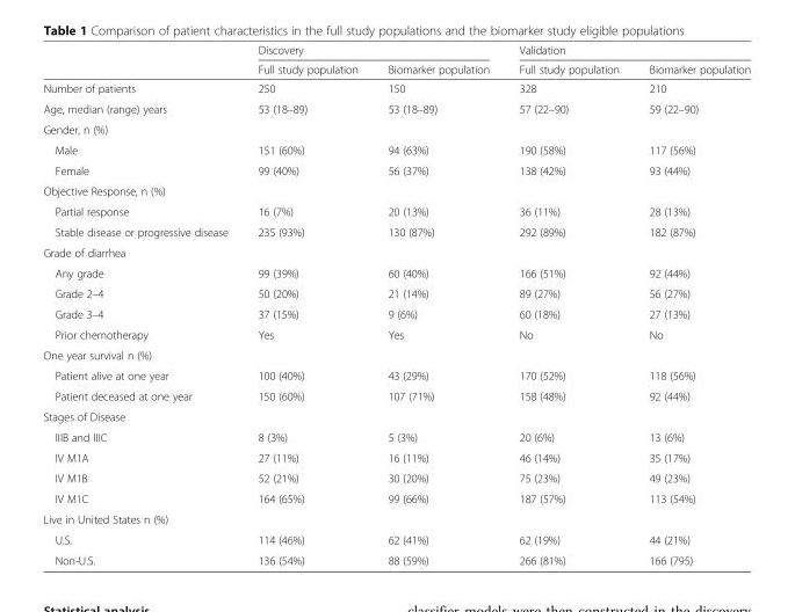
<table><thead><tr><td rowspan="2"></td><td colspan="2">Discovery</td><td colspan="2">Validation</td></tr><tr><td>Full study population</td><td>Biomarker population</td><td>Full study population</td><td>Biomarker population</td></tr></thead><tbody><tr><td>Number of patients</td><td>250</td><td>150</td><td>328</td><td>210</td></tr><tr><td>Age, median (range) years</td><td>53 (18–89)</td><td>53 (18–89)</td><td>57 (22–90)</td><td>59 (22–90)</td></tr><tr><td colspan="5">Gender, n (%)</td></tr><tr><td>Male</td><td>151 (60%)</td><td>94 (63%)</td><td>190 (58%)</td><td>117 (56%)</td></tr><tr><td>Female</td><td>99 (40%)</td><td>56 (37%)</td><td>138 (42%)</td><td>93 (44%)</td></tr><tr><td colspan="5">Objective Response, n (%)</td></tr><tr><td>Partial response</td><td>16 (7%)</td><td>20 (13%)</td><td>36 (11%)</td><td>28 (13%)</td></tr><tr><td>Stable disease or progressive disease</td><td>235 (93%)</td><td>130 (87%)</td><td>292 (89%)</td><td>182 (87%)</td></tr><tr><td colspan="5">Grade of diarrhea</td></tr><tr><td>Any grade</td><td>99 (39%)</td><td>60 (40%)</td><td>166 (51%)</td><td>92 (44%)</td></tr><tr><td>Grade 2–4</td><td>50 (20%)</td><td>21 (14%)</td><td>89 (27%)</td><td>56 (27%)</td></tr><tr><td>Grade 3–4</td><td>37 (15%)</td><td>9 (6%)</td><td>60 (18%)</td><td>27 (13%)</td></tr><tr><td>Prior chemotherapy</td><td>Yes</td><td>Yes</td><td>No</td><td>No</td></tr><tr><td colspan="5">One year survival n (%)</td></tr><tr><td>Patient alive at one year</td><td>100 (40%)</td><td>43 (29%)</td><td>170 (52%)</td><td>118 (56%)</td></tr><tr><td>Patient deceased at one year</td><td>150 (60%)</td><td>107 (71%)</td><td>158 (48%)</td><td>92 (44%)</td></tr><tr><td colspan="5">Stages of Disease</td></tr><tr><td>IIIB and IIIC</td><td>8 (3%)</td><td>5 (3%)</td><td>20 (6%)</td><td>13 (6%)</td></tr><tr><td>IV M1A</td><td>27 (11%)</td><td>16 (11%)</td><td>46 (14%)</td><td>35 (17%)</td></tr><tr><td>IV M1B</td><td>52 (21%)</td><td>30 (20%)</td><td>75 (23%)</td><td>49 (23%)</td></tr><tr><td>IV M1C</td><td>164 (65%)</td><td>99 (66%)</td><td>187 (57%)</td><td>113 (54%)</td></tr><tr><td colspan="5">Live in United States n (%)</td></tr><tr><td>U.S.</td><td>114 (46%)</td><td>62 (41%)</td><td>62 (19%)</td><td>44 (21%)</td></tr><tr><td>Non-U.S.</td><td>136 (54%)</td><td>88 (59%)</td><td>266 (81%)</td><td>166 (795)</td></tr></tbody></table>